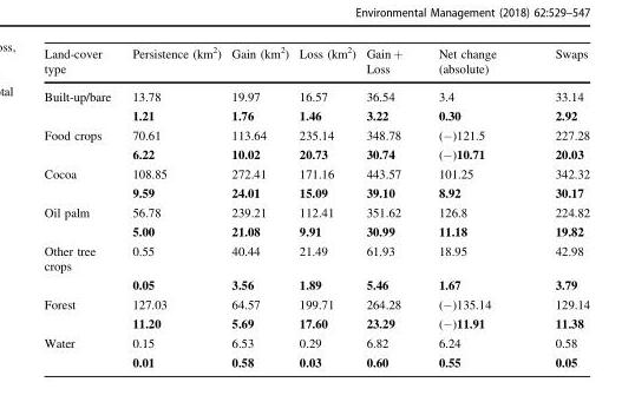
<table><thead><tr><td>Land-cover type</td><td>Persistence (km<sup>2</sup>)</td><td>Gain (km<sup>2</sup>)</td><td>Loss (km<sup>2</sup>)</td><td>Gain + Loss</td><td>Net change (absolute)</td><td>Swaps</td></tr></thead><tbody><tr><td rowspan="2">Built-up/bare</td><td>13.78</td><td>19.97</td><td>16.57</td><td>36.54</td><td>3.4</td><td>33.14</td></tr><tr><td>1.21</td><td>1.76</td><td>1.46</td><td>3.22</td><td>0.30</td><td>2.92</td></tr><tr><td rowspan="2">Food crops</td><td>70.61</td><td>113.64</td><td>235.14</td><td>348.78</td><td>(−)121.5</td><td>227.28</td></tr><tr><td>6.22</td><td>10.02</td><td>20.73</td><td>30.74</td><td>(−)10.71</td><td>20.03</td></tr><tr><td rowspan="2">Cocoa</td><td>108.85</td><td>272.41</td><td>171.16</td><td>443.57</td><td>101.25</td><td>342.32</td></tr><tr><td>9.59</td><td>24.01</td><td>15.09</td><td>39.10</td><td>8.92</td><td>30.17</td></tr><tr><td rowspan="2">Oil palm</td><td>56.78</td><td>239.21</td><td>112.41</td><td>351.62</td><td>126.8</td><td>224.82</td></tr><tr><td>5.00</td><td>21.08</td><td>9.91</td><td>30.99</td><td>11.18</td><td>19.82</td></tr><tr><td rowspan="2">Other tree crops</td><td>0.55</td><td>40.44</td><td>21.49</td><td>61.93</td><td>18.95</td><td>42.98</td></tr><tr><td>0.05</td><td>3.56</td><td>1.89</td><td>5.46</td><td>1.67</td><td>3.79</td></tr><tr><td rowspan="2">Forest</td><td>127.03</td><td>64.57</td><td>199.71</td><td>264.28</td><td>(−)135.14</td><td>129.14</td></tr><tr><td>11.20</td><td>5.69</td><td>17.60</td><td>23.29</td><td>(−)11.91</td><td>11.38</td></tr><tr><td rowspan="2">Water</td><td>0.15</td><td>6.53</td><td>0.29</td><td>6.82</td><td>6.24</td><td>0.58</td></tr><tr><td>0.01</td><td>0.58</td><td>0.03</td><td>0.60</td><td>0.55</td><td>0.05</td></tr></tbody></table>